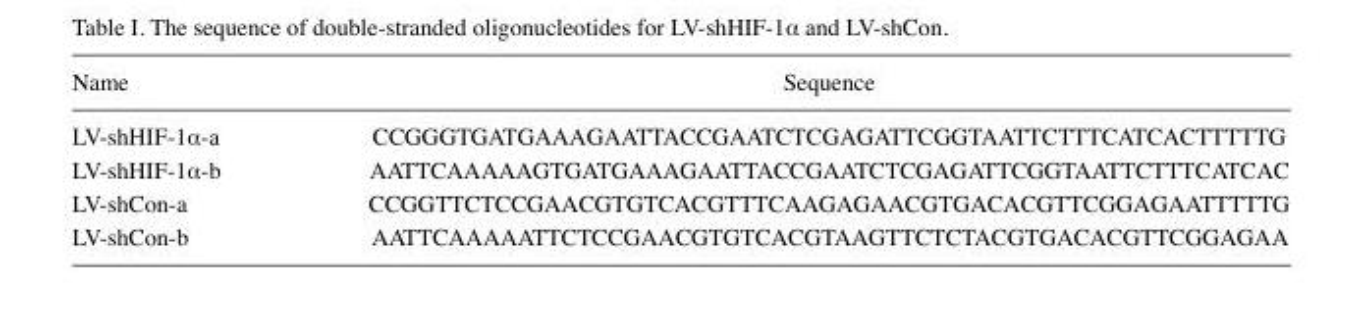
<table><thead><tr><td>Name</td><td>Sequence</td></tr></thead><tbody><tr><td>LV-shHIF-1α-a</td><td>CCGGGTGATGAAAGAATTACCGAATCTCGAGATTCGGTAATTCTTTCATCACTTTTTG</td></tr><tr><td>LV-shHIF-1α-b</td><td>AATTCAAAAAGTGATGAAAGAATTACCGAATCTCGAGATTCGGTAATTCTTTCATCAC</td></tr><tr><td>LV-shCon-a</td><td>CCGGTTCTCCGAACGTGTCACGTTTCAAGAGAACGTGACACGTTCGGAGAATTTTTG</td></tr><tr><td>LV-shCon-b</td><td>AATTCAAAAATTCTCCGAACGTGTCACGTAAGTTCTCTACGTGACACGTTCGGAGAA</td></tr></tbody></table>